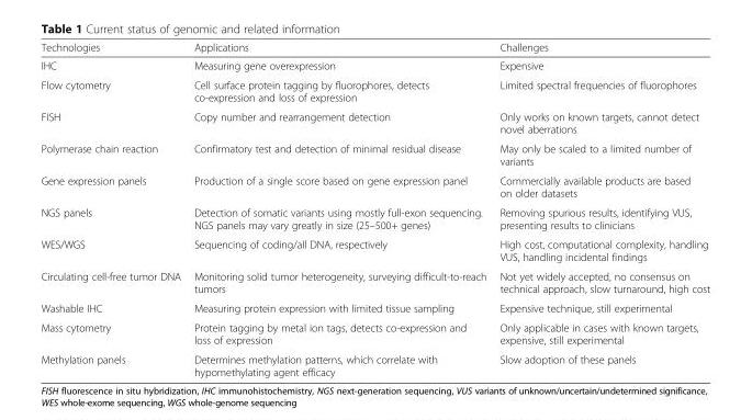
<table><thead><tr><td>Technologies</td><td>Applications</td><td>Challenges</td></tr></thead><tbody><tr><td>IHC</td><td>Measuring gene overexpression</td><td>Expensive</td></tr><tr><td>Flow cytometry</td><td>Cell surface protein tagging by fluorophores, detects co-expression and loss of expression</td><td>Limited spectral frequencies of fluorophores</td></tr><tr><td>FISH</td><td>Copy number and rearrangement detection</td><td>Only works on known targets, cannot detect novel aberrations</td></tr><tr><td>Polymerase chain reaction</td><td>Confirmatory test and detection of minimal residual disease</td><td>May only be scaled to a limited number of variants</td></tr><tr><td>Gene expression panels</td><td>Production of a single score based on gene expression panel</td><td>Commercially available products are based on older datasets</td></tr><tr><td>NGS panels</td><td>Detection of somatic variants using mostly full-exon sequencing. NGS panels may vary greatly in size (25–500+ genes)</td><td>Removing spurious results, identifying VUS, presenting results to clinicians</td></tr><tr><td>WES/WGS</td><td>Sequencing of coding/all DNA, respectively</td><td>High cost, computational complexity, handling VUS, handling incidental findings</td></tr><tr><td>Circulating cell-free tumor DNA</td><td>Monitoring solid tumor heterogeneity, surveying difficult-to-reach tumors</td><td>Not yet widely accepted, no consensus on technical approach, slow turnaround, high cost</td></tr><tr><td>Washable IHC</td><td>Measuring protein expression with limited tissue sampling</td><td>Expensive technique, still experimental</td></tr><tr><td>Mass cytometry</td><td>Protein tagging by metal ion tags, detects co-expression and loss of expression</td><td>Only applicable in cases with known targets, expensive, still experimental</td></tr><tr><td>Methylation panels</td><td>Determines methylation patterns, which correlate with hypomethylating agent efficacy</td><td>Slow adoption of these panels</td></tr></tbody></table>